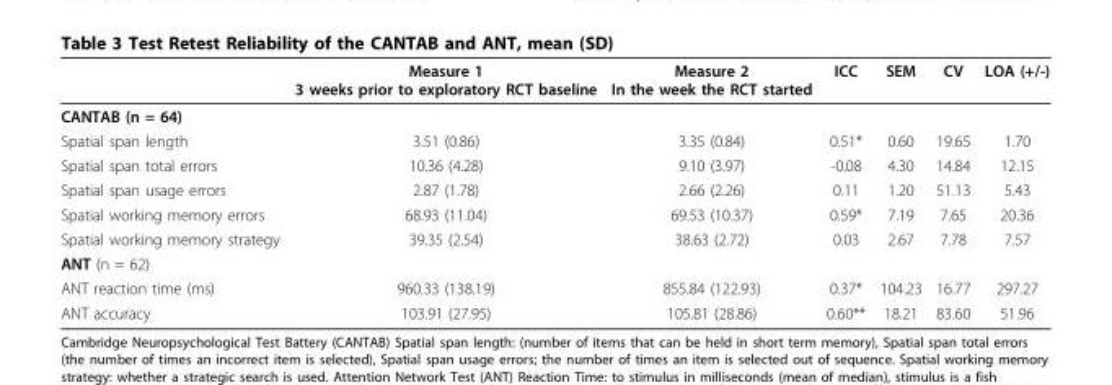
<table><thead><tr><td></td><td>Measure 1 3 weeks prior to exploratory RCT baseline</td><td>Measure 2 In the week the RCT started</td><td>ICC</td><td>SEM</td><td>CV</td><td>LOA (+/-)</td></tr></thead><tbody><tr><td colspan="7">CANTAB (n = 64)</td></tr><tr><td>Spatial span length</td><td>3.51 (0.86)</td><td>3.35 (0.84)</td><td>0.51*</td><td>0.60</td><td>19.65</td><td>1.70</td></tr><tr><td>Spatial span total errors</td><td>10.36 (4.28)</td><td>9.10 (3.97)</td><td>-0.08</td><td>4.30</td><td>14.84</td><td>12.15</td></tr><tr><td>Spatial span usage errors</td><td>2.87 (1.78)</td><td>2.66 (2.26)</td><td>0.11</td><td>1.20</td><td>51.13</td><td>5.43</td></tr><tr><td>Spatial working memory errors</td><td>68.93 (11.04)</td><td>69.53 (10.37)</td><td>0.59*</td><td>7.19</td><td>7.65</td><td>20.36</td></tr><tr><td>Spatial working memory strategy</td><td>39.35 (2.54)</td><td>38.63 (2.72)</td><td>0.03</td><td>2.67</td><td>7.78</td><td>7.57</td></tr><tr><td colspan="7">ANT (n = 62)</td></tr><tr><td>ANT reaction time (ms)</td><td>960.33 (138.19)</td><td>855.84 (122.93)</td><td>0.37*</td><td>104.23</td><td>16.77</td><td>297.27</td></tr><tr><td>ANT accuracy</td><td>103.91 (27.95)</td><td>105.81 (28.86)</td><td>0.60**</td><td>18.21</td><td>83.60</td><td>51.96</td></tr></tbody></table>